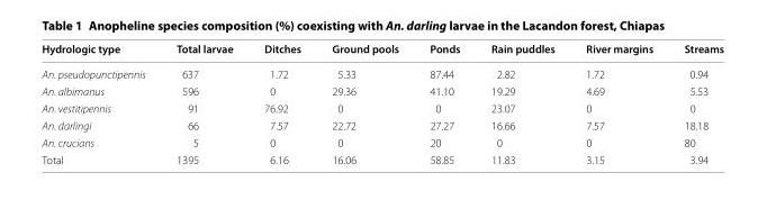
<table><thead><tr><td>Hydrologic type</td><td>Total larvae</td><td>Ditches</td><td>Ground pools</td><td>Ponds</td><td>Rain puddles</td><td>River margins</td><td>Streams</td></tr></thead><tbody><tr><td>An. pseudopunctipennis</td><td>637</td><td>1.72</td><td>5.33</td><td>87.44</td><td>2.82</td><td>1.72</td><td>0.94</td></tr><tr><td>An. albimanus</td><td>596</td><td>0</td><td>29.36</td><td>41.10</td><td>19.29</td><td>4.69</td><td>5.53</td></tr><tr><td>An. vestitipennis</td><td>91</td><td>76.92</td><td>0</td><td>0</td><td>23.07</td><td>0</td><td>0</td></tr><tr><td>An. darlingi</td><td>66</td><td>7.57</td><td>22.72</td><td>27.27</td><td>16.66</td><td>7.57</td><td>18.18</td></tr><tr><td>An. crucians</td><td>5</td><td>0</td><td>0</td><td>20</td><td>0</td><td>0</td><td>80</td></tr><tr><td>Total</td><td>1395</td><td>6.16</td><td>16.06</td><td>58.85</td><td>11.83</td><td>3.15</td><td>3.94</td></tr></tbody></table>